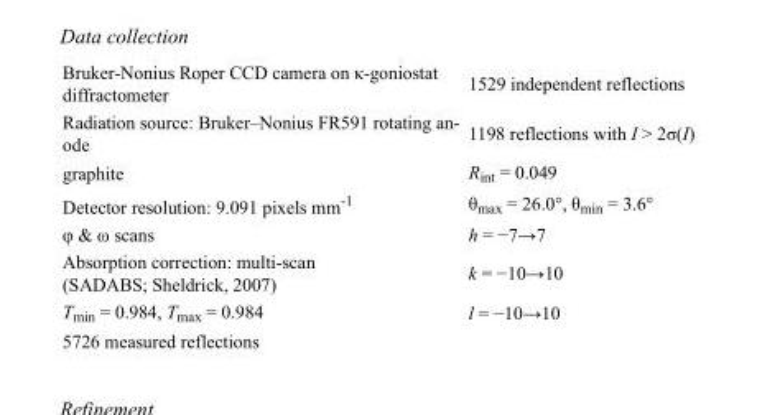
<table><tbody><tr><td>Bruker-Nonius Roper CCD camera on κ-goniostat diffractometer</td><td>1529 independent reflections</td></tr><tr><td>Radiation source: Bruker–Nonius FR591 rotating an- ode</td><td>1198 reflections with I &gt; 2σ(I)</td></tr><tr><td>graphite</td><td>R<sub>int</sub> = 0.049</td></tr><tr><td>Detector resolution: 9.091 pixels mm<sup>-1</sup></td><td>θ<sub>max</sub> = 26.0°, θ<sub>min</sub> = 3.6°</td></tr><tr><td>φ &amp; ω scans</td><td>h = −7→7</td></tr><tr><td>Absorption correction: multi-scan (SADABS; Sheldrick, 2007)</td><td>k = −10→10</td></tr><tr><td>T<sub>min</sub> = 0.984, T<sub>max</sub> = 0.984</td><td>l = −10→10</td></tr><tr><td>5726 measured reflections</td><td></td></tr></tbody></table>